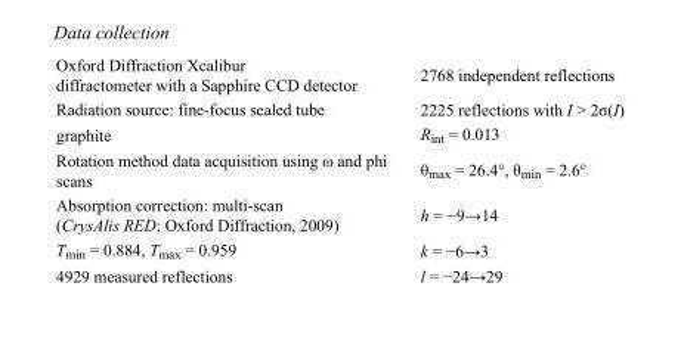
<table><tbody><tr><td>Oxford Diffraction Xcalibur diffractometer with a Sapphire CCD detector</td><td>2768 independent reflections</td></tr><tr><td>Radiation source: fine-focus sealed tube</td><td>2225 reflections with I &gt; 2σ(I)</td></tr><tr><td>graphite</td><td>R<sub>int</sub> = 0.013</td></tr><tr><td>Rotation method data acquisition using ω and phi scans</td><td>θ<sub>max</sub> = 26.4°, θ<sub>min</sub> = 2.6°</td></tr><tr><td>Absorption correction: multi-scan (CrysAlis RED; Oxford Diffraction, 2009)</td><td>h = −9→14</td></tr><tr><td>T<sub>min</sub> = 0.884, T<sub>max</sub> = 0.959</td><td>k = −6→3</td></tr><tr><td>4929 measured reflections</td><td>l = −24→29</td></tr></tbody></table>